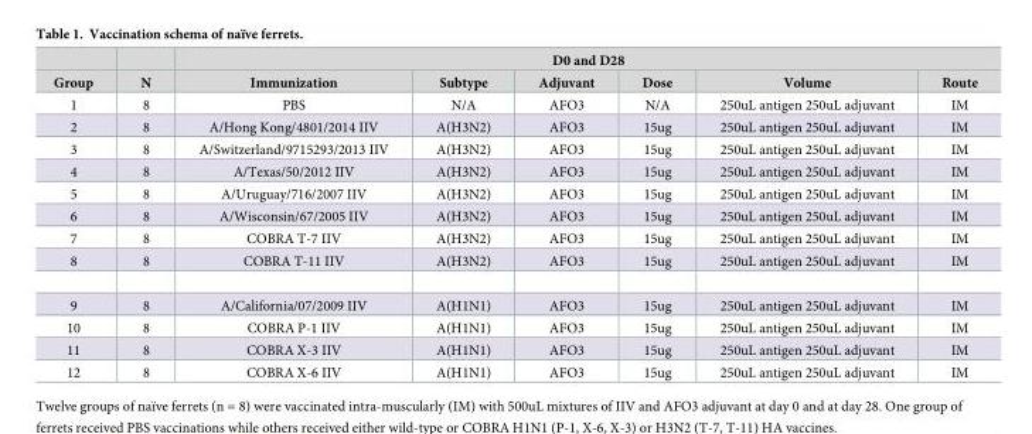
<table><thead><tr><td rowspan="2">Group</td><td rowspan="2">N</td><td colspan="6">D0 and D28</td></tr><tr><td>Immunization</td><td>Subtype</td><td>Adjuvant</td><td>Dose</td><td>Volume</td><td>Route</td></tr></thead><tbody><tr><td>1</td><td>8</td><td>PBS</td><td>N/A</td><td>AFO3</td><td>N/A</td><td>250uL antigen 250uL adjuvant</td><td>IM</td></tr><tr><td>2</td><td>8</td><td>A/Hong Kong/4801/2014 IIV</td><td>A(H3N2)</td><td>AFO3</td><td>15ug</td><td>250uL antigen 250uL adjuvant</td><td>IM</td></tr><tr><td>3</td><td>8</td><td>A/Switzerland/9715293/2013 IIV</td><td>A(H3N2)</td><td>AFO3</td><td>15ug</td><td>250uL antigen 250uL adjuvant</td><td>IM</td></tr><tr><td>4</td><td>8</td><td>A/Texas/50/2012 IIV</td><td>A(H3N2)</td><td>AFO3</td><td>15ug</td><td>250uL antigen 250uL adjuvant</td><td>IM</td></tr><tr><td>5</td><td>8</td><td>A/Uruguay/716/2007 IIV</td><td>A(H3N2)</td><td>AFO3</td><td>15ug</td><td>250uL antigen 250uL adjuvant</td><td>IM</td></tr><tr><td>6</td><td>8</td><td>A/Wisconsin/67/2005 IIV</td><td>A(H3N2)</td><td>AFO3</td><td>15ug</td><td>250uL antigen 250uL adjuvant</td><td>IM</td></tr><tr><td>7</td><td>8</td><td>COBRA T-7 IIV</td><td>A(H3N2)</td><td>AFO3</td><td>15ug</td><td>250uL antigen 250uL adjuvant</td><td>IM</td></tr><tr><td>8</td><td>8</td><td>COBRA T-11 IIV</td><td>A(H3N2)</td><td>AFO3</td><td>15ug</td><td>250uL antigen 250uL adjuvant</td><td>IM</td></tr><tr><td>9</td><td>8</td><td>A/California/07/2009 IIV</td><td>A(H1N1)</td><td>AFO3</td><td>15ug</td><td>250uL antigen 250uL adjuvant</td><td>IM</td></tr><tr><td>10</td><td>8</td><td>COBRA P-1 IIV</td><td>A(H1N1)</td><td>AFO3</td><td>15ug</td><td>250uL antigen 250uL adjuvant</td><td>IM</td></tr><tr><td>11</td><td>8</td><td>COBRA X-3 IIV</td><td>A(H1N1)</td><td>AFO3</td><td>15ug</td><td>250uL antigen 250uL adjuvant</td><td>IM</td></tr><tr><td>12</td><td>8</td><td>COBRA X-6 IIV</td><td>A(H1N1)</td><td>AFO3</td><td>15ug</td><td>250uL antigen 250uL adjuvant</td><td>IM</td></tr></tbody></table>